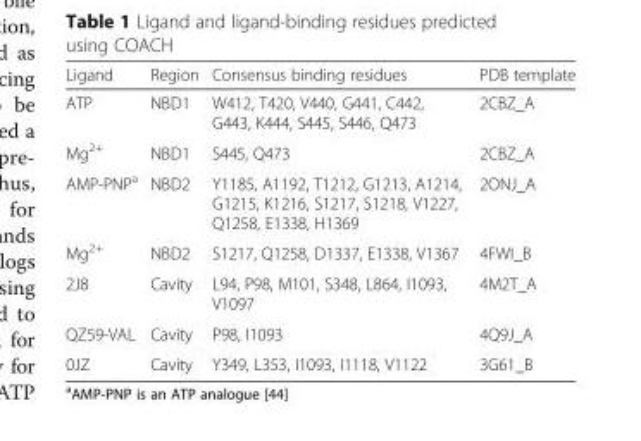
<table><thead><tr><td>Ligand</td><td>Region</td><td>Consensus binding residues</td><td>PDB template</td></tr></thead><tbody><tr><td>ATP</td><td>NBD1</td><td>W412, T420, V440, G441, C442, G443, K444, S445, S446, Q473</td><td>2CBZ_A</td></tr><tr><td>Mg<sup>2+</sup></td><td>NBD1</td><td>S445, Q473</td><td>2CBZ_A</td></tr><tr><td>AMP-PNP<sup>a</sup></td><td>NBD2</td><td>Y1185, A1192, T1212, G1213, A1214, G1215, K1216, S1217, S1218, V1227, Q1258, E1338, H1369</td><td>2ONJ_A</td></tr><tr><td>Mg<sup>2+</sup></td><td>NBD2</td><td>S1217, Q1258, D1337, E1338, V1367</td><td>4FWI_B</td></tr><tr><td>2J8</td><td>Cavity</td><td>L94, P98, M101, S348, L864, I1093, V1097</td><td>4M2T_A</td></tr><tr><td>QZ59-VAL</td><td>Cavity</td><td>P98, I1093</td><td>4Q9J_A</td></tr><tr><td>0JZ</td><td>Cavity</td><td>Y349, L353, I1093, I1118, V1122</td><td>3G61_B</td></tr></tbody></table>